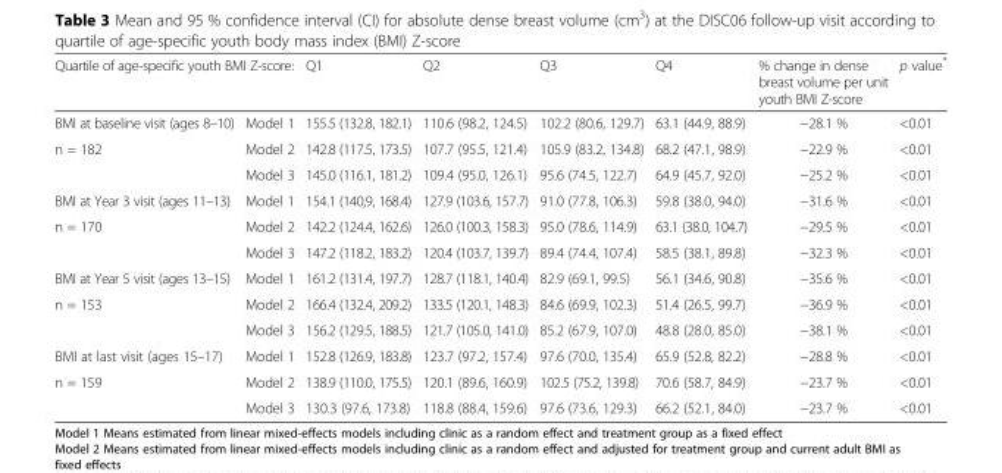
<table><thead><tr><td colspan="2">Quartile of age-specific youth BMI Z-score:</td><td rowspan="2">Q1 155.5 (132.8, 182.1)</td><td rowspan="2">Q2 110.6 (98.2, 124.5)</td><td rowspan="2">Q3 102.2 (80.6, 129.7)</td><td rowspan="2">Q4 63.1 (44.9, 88.9)</td><td rowspan="2">% change in dense breast volume per unit youth BMI Z-score −28.1 %</td><td rowspan="2">p value* &lt;0.01</td></tr><tr><td>BMI at baseline visit (ages 8–10)</td><td>Model 1</td></tr></thead><tbody><tr><td rowspan="2">n = 182</td><td>Model 2</td><td>142.8 (117.5, 173.5)</td><td>107.7 (95.5, 121.4)</td><td>105.9 (83.2, 134.8)</td><td>68.2 (47.1, 98.9)</td><td>−22.9 %</td><td>&lt;0.01</td></tr><tr><td>Model 3</td><td>145.0 (116.1, 181.2)</td><td>109.4 (95.0, 126.1)</td><td>95.6 (74.5, 122.7)</td><td>64.9 (45.7, 92.0)</td><td>−25.2 %</td><td>&lt;0.01</td></tr><tr><td>BMI at Year 3 visit (ages 11–13)</td><td>Model 1</td><td>154.1 (140,9, 168.4)</td><td>127.9 (103.6, 157.7)</td><td>91.0 (77.8, 106.3)</td><td>59.8 (38.0, 94.0)</td><td>−31.6 %</td><td>&lt;0.01</td></tr><tr><td rowspan="2">n = 170</td><td>Model 2</td><td>142.2 (124.4, 162.6)</td><td>126.0 (100.3, 158.3)</td><td>95.0 (78.6, 114.9)</td><td>63.1 (38.0, 104.7)</td><td>−29.5 %</td><td>&lt;0.01</td></tr><tr><td>Model 3</td><td>147.2 (118.2, 183.2)</td><td>120.4 (103.7, 139.7)</td><td>89.4 (74.4, 107.4)</td><td>58.5 (38.1, 89.8)</td><td>−32.3 %</td><td>&lt;0.01</td></tr><tr><td>BMI at Year 5 visit (ages 13–15)</td><td>Model 1</td><td>161.2 (131.4, 197.7)</td><td>128.7 (118.1, 140.4)</td><td>82.9 (69.1, 99.5)</td><td>56.1 (34.6, 90.8)</td><td>−35.6 %</td><td>&lt;0.01</td></tr><tr><td rowspan="2">n = 153</td><td>Model 2</td><td>166.4 (132.4, 209.2)</td><td>133.5 (120.1, 148.3)</td><td>84.6 (69.9, 102.3)</td><td>51.4 (26.5, 99.7)</td><td>−36.9 %</td><td>&lt;0.01</td></tr><tr><td>Model 3</td><td>156.2 (129.5, 188.5)</td><td>121.7 (105.0, 141.0)</td><td>85.2 (67.9, 107.0)</td><td>48.8 (28.0, 85.0)</td><td>−38.1 %</td><td>&lt;0.01</td></tr><tr><td>BMI at last visit (ages 15–17)</td><td>Model 1</td><td>152.8 (126.9, 183.8)</td><td>123.7 (97.2, 157.4)</td><td>97.6 (70.0, 135.4)</td><td>65.9 (52.8, 82.2)</td><td>−28.8 %</td><td>&lt;0.01</td></tr><tr><td rowspan="2">n = 159</td><td>Model 2</td><td>138.9 (110.0, 175.5)</td><td>120.1 (89.6, 160.9)</td><td>102.5 (75.2, 139.8)</td><td>70.6 (58.7, 84.9)</td><td>−23.7 %</td><td>&lt;0.01</td></tr><tr><td>Model 3</td><td>130.3 (97.6, 173.8)</td><td>118.8 (88.4, 159.6)</td><td>97.6 (73.6, 129.3)</td><td>66.2 (52.1, 84.0)</td><td>−23.7 %</td><td>&lt;0.01</td></tr></tbody></table>